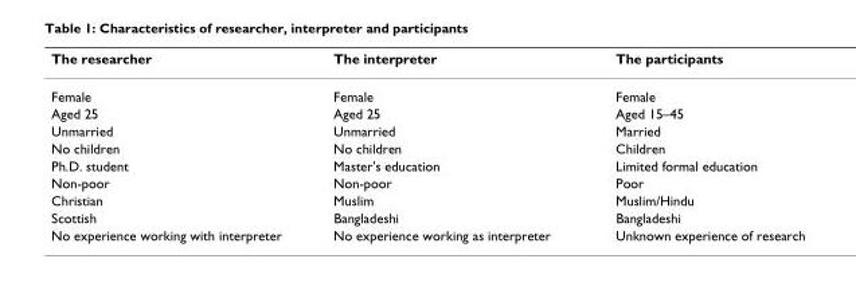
<table><thead><tr><td>The researcher</td><td>The interpreter</td><td>The participants</td></tr></thead><tbody><tr><td>Female</td><td>Female</td><td>Female</td></tr><tr><td>Aged 25</td><td>Aged 25</td><td>Aged 15–45</td></tr><tr><td>Unmarried</td><td>Unmarried</td><td>Married</td></tr><tr><td>No children</td><td>No children</td><td>Children</td></tr><tr><td>Ph.D. student</td><td>Master&#x27;s education</td><td>Limited formal education</td></tr><tr><td>Non-poor</td><td>Non-poor</td><td>Poor</td></tr><tr><td>Christian</td><td>Muslim</td><td>Muslim/Hindu</td></tr><tr><td>Scottish</td><td>Bangladeshi</td><td>Bangladeshi</td></tr><tr><td>No experience working with interpreter</td><td>No experience working as interpreter</td><td>Unknown experience of research</td></tr></tbody></table>